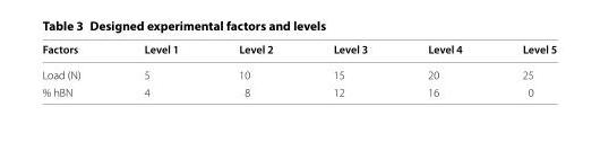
<table><thead><tr><td>Factors</td><td>Level 1</td><td>Level 2</td><td>Level 3</td><td>Level 4</td><td>Level 5</td></tr></thead><tbody><tr><td>Load (N)</td><td>5</td><td>10</td><td>15</td><td>20</td><td>25</td></tr><tr><td>% hBN</td><td>4</td><td>8</td><td>12</td><td>16</td><td>0</td></tr></tbody></table>